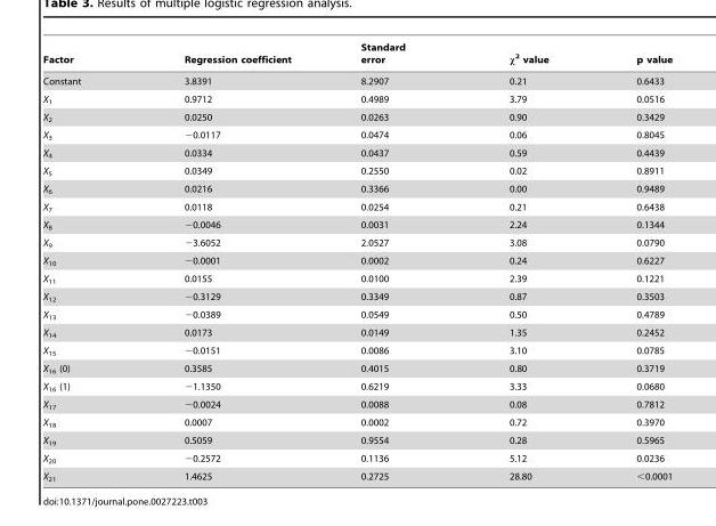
<table><thead><tr><td>Factor</td><td>Regression coefficient</td><td>Standard error</td><td>x<sup>2</sup> value</td><td>p value</td></tr></thead><tbody><tr><td>Constant</td><td>3.8391</td><td>8.2907</td><td>0.21</td><td>0.6433</td></tr><tr><td>X<sub>1</sub></td><td>0.9712</td><td>0.4989</td><td>3.79</td><td>0.0516</td></tr><tr><td>X<sub>2</sub></td><td>0.0250</td><td>0.0263</td><td>0.90</td><td>0.3429</td></tr><tr><td>X<sub>3</sub></td><td>−0.0117</td><td>0.0474</td><td>0.06</td><td>0.8045</td></tr><tr><td>X<sub>4</sub></td><td>0.0334</td><td>0.0437</td><td>0.59</td><td>0.4439</td></tr><tr><td>X<sub>5</sub></td><td>0.0349</td><td>0.2550</td><td>0.02</td><td>0.8911</td></tr><tr><td>X<sub>6</sub></td><td>0.0216</td><td>0.3366</td><td>0.00</td><td>0.9489</td></tr><tr><td>X<sub>7</sub></td><td>0.0118</td><td>0.0254</td><td>0.21</td><td>0.6438</td></tr><tr><td>X<sub>8</sub></td><td>−0.0046</td><td>0.0031</td><td>2.24</td><td>0.1344</td></tr><tr><td>X<sub>9</sub></td><td>−3.6052</td><td>2.0527</td><td>3.08</td><td>0.0790</td></tr><tr><td>X<sub>10</sub></td><td>−0.0001</td><td>0.0002</td><td>0.24</td><td>0.6227</td></tr><tr><td>X<sub>11</sub></td><td>0.0155</td><td>0.0100</td><td>2.39</td><td>0.1221</td></tr><tr><td>X<sub>12</sub></td><td>−0.3129</td><td>0.3349</td><td>0.87</td><td>0.3503</td></tr><tr><td>X<sub>13</sub></td><td>−0.0389</td><td>0.0549</td><td>0.50</td><td>0.4789</td></tr><tr><td>X<sub>14</sub></td><td>0.0173</td><td>0.0149</td><td>1.35</td><td>0.2452</td></tr><tr><td>X<sub>15</sub></td><td>−0.0151</td><td>0.0086</td><td>3.10</td><td>0.0785</td></tr><tr><td>X<sub>16</sub> (0)</td><td>0.3585</td><td>0.4015</td><td>0.80</td><td>0.3719</td></tr><tr><td>X<sub>16</sub> (1)</td><td>−1.1350</td><td>0.6219</td><td>3.33</td><td>0.0680</td></tr><tr><td>X<sub>17</sub></td><td>−0.0024</td><td>0.0088</td><td>0.08</td><td>0.7812</td></tr><tr><td>X<sub>18</sub></td><td>0.0007</td><td>0.0002</td><td>0.72</td><td>0.3970</td></tr><tr><td>X<sub>19</sub></td><td>0.5059</td><td>0.9554</td><td>0.28</td><td>0.5965</td></tr><tr><td>X<sub>20</sub></td><td>−0.2572</td><td>0.1136</td><td>5.12</td><td>0.0236</td></tr><tr><td>X<sub>21</sub></td><td>1.4625</td><td>0.2725</td><td>28.80</td><td>&lt;0.0001</td></tr></tbody></table>